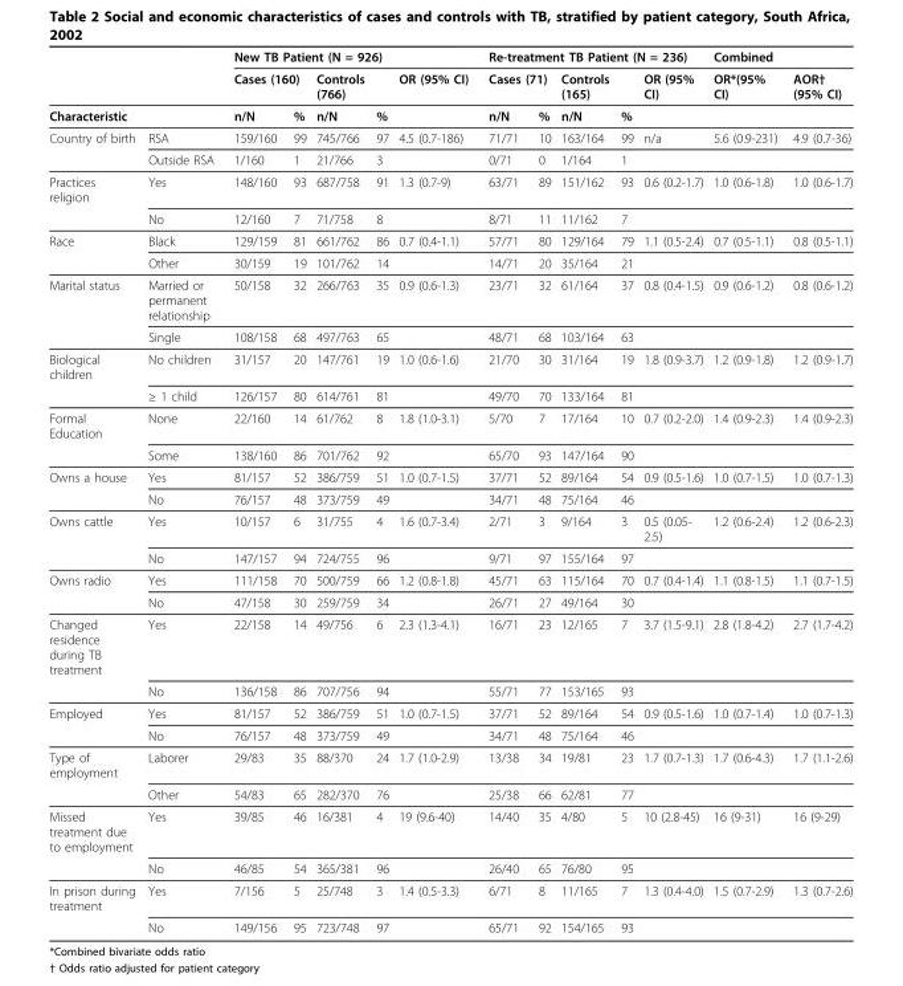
<table><thead><tr><td rowspan="2"></td><td rowspan="2"></td><td colspan="5">New TB Patient (N = 926)</td><td colspan="5">Re-treatment TB Patient (N = 236)</td><td colspan="2">Combined</td></tr><tr><td colspan="2">Cases (160)</td><td colspan="2">Controls (766)</td><td rowspan="2">OR (95% CI)</td><td colspan="2">Cases (71)</td><td colspan="2">Controls (165)</td><td rowspan="2">OR (95% CI)</td><td rowspan="2">OR*(95% CI)</td><td rowspan="2">AOR† (95% CI)</td></tr><tr><td colspan="2">Characteristic</td><td>n/N</td><td>%</td><td>n/N</td><td>%</td><td>n/N</td><td>%</td><td>n/N</td><td>%</td></tr></thead><tbody><tr><td rowspan="2">Country of birth</td><td>RSA</td><td>159/160</td><td>99</td><td>745/766</td><td>97</td><td>4.5 (0.7-186)</td><td>71/71</td><td>10</td><td>163/164</td><td>99</td><td>n/a</td><td>5.6 (0.9-231)</td><td>4.9 (0.7-36)</td></tr><tr><td>Outside RSA</td><td>1/160</td><td>1</td><td>21/766</td><td>3</td><td></td><td>0/71</td><td>0</td><td>1/164</td><td>1</td><td></td><td></td><td></td></tr><tr><td rowspan="2">Practices religion</td><td>Yes</td><td>148/160</td><td>93</td><td>687/758</td><td>91</td><td>1.3 (0.7-9)</td><td>63/71</td><td>89</td><td>151/162</td><td>93</td><td>0.6 (0.2-1.7)</td><td>1.0 (0.6-1.8)</td><td>1.0 (0.6-1.7)</td></tr><tr><td>No</td><td>12/160</td><td>7</td><td>71/758</td><td>8</td><td></td><td>8/71</td><td>11</td><td>11/162</td><td>7</td><td></td><td></td><td></td></tr><tr><td rowspan="2">Race</td><td>Black</td><td>129/159</td><td>81</td><td>661/762</td><td>86</td><td>0.7 (0.4-1.1)</td><td>57/71</td><td>80</td><td>129/164</td><td>79</td><td>1.1 (0.5-2.4)</td><td>0.7 (0.5-1.1)</td><td>0.8 (0.5-1.1)</td></tr><tr><td>Other</td><td>30/159</td><td>19</td><td>101/762</td><td>14</td><td></td><td>14/71</td><td>20</td><td>35/164</td><td>21</td><td></td><td></td><td></td></tr><tr><td rowspan="2">Marital status</td><td>Married or permanent relationship</td><td>50/158</td><td>32</td><td>266/763</td><td>35</td><td>0.9 (0.6-1.3)</td><td>23/71</td><td>32</td><td>61/164</td><td>37</td><td>0.8 (0.4-1.5)</td><td>0.9 (0.6-1.2)</td><td>0.8 (0.6-1.2)</td></tr><tr><td>Single</td><td>108/158</td><td>68</td><td>497/763</td><td>65</td><td></td><td>48/71</td><td>68</td><td>103/164</td><td>63</td><td></td><td></td><td></td></tr><tr><td rowspan="2">Biological children</td><td>No children</td><td>31/157</td><td>20</td><td>147/761</td><td>19</td><td>1.0 (0.6-1.6)</td><td>21/70</td><td>30</td><td>31/164</td><td>19</td><td>1.8 (0.9-3.7)</td><td>1.2 (0.9-1.8)</td><td>1.2 (0.9-1.7)</td></tr><tr><td>≥ 1 child</td><td>126/157</td><td>80</td><td>614/761</td><td>81</td><td></td><td>49/70</td><td>70</td><td>133/164</td><td>81</td><td></td><td></td><td></td></tr><tr><td rowspan="2">Formal Education</td><td>None</td><td>22/160</td><td>14</td><td>61/762</td><td>8</td><td>1.8 (1.0-3.1)</td><td>5/70</td><td>7</td><td>17/164</td><td>10</td><td>0.7 (0.2-2.0)</td><td>1.4 (0.9-2.3)</td><td>1.4 (0.9-2.3)</td></tr><tr><td>Some</td><td>138/160</td><td>86</td><td>701/762</td><td>92</td><td></td><td>65/70</td><td>93</td><td>147/164</td><td>90</td><td></td><td></td><td></td></tr><tr><td rowspan="2">Owns a house</td><td>Yes</td><td>81/157</td><td>52</td><td>386/759</td><td>51</td><td>1.0 (0.7-1.5)</td><td>37/71</td><td>52</td><td>89/164</td><td>54</td><td>0.9 (0.5-1.6)</td><td>1.0 (0.7-1.5)</td><td>1.0 (0.7-1.3)</td></tr><tr><td>No</td><td>76/157</td><td>48</td><td>373/759</td><td>49</td><td></td><td>34/71</td><td>48</td><td>75/164</td><td>46</td><td></td><td></td><td></td></tr><tr><td rowspan="2">Owns cattle</td><td>Yes</td><td>10/157</td><td>6</td><td>31/755</td><td>4</td><td>1.6 (0.7-3.4)</td><td>2/71</td><td>3</td><td>9/164</td><td>3</td><td>0.5 (0.05- 2.5)</td><td>1.2 (0.6-2.4)</td><td>1.2 (0.6-2.3)</td></tr><tr><td>No</td><td>147/157</td><td>94</td><td>724/755</td><td>96</td><td></td><td>9/71</td><td>97</td><td>155/164</td><td>97</td><td></td><td></td><td></td></tr><tr><td rowspan="2">Owns radio</td><td>Yes</td><td>111/158</td><td>70</td><td>500/759</td><td>66</td><td>1.2 (0.8-1.8)</td><td>45/71</td><td>63</td><td>115/164</td><td>70</td><td>0.7 (0.4-1.4)</td><td>1.1 (0.8-1.5)</td><td>1.1 (0.7-1.5)</td></tr><tr><td>No</td><td>47/158</td><td>30</td><td>259/759</td><td>34</td><td></td><td>26/71</td><td>27</td><td>49/164</td><td>30</td><td></td><td></td><td></td></tr><tr><td rowspan="2">Changed residence during TB treatment</td><td>Yes</td><td>22/158</td><td>14</td><td>49/756</td><td>6</td><td>2.3 (1.3-4.1)</td><td>16/71</td><td>23</td><td>12/165</td><td>7</td><td>3.7 (1.5-9.1)</td><td>2.8 (1.8-4.2)</td><td>2.7 (1.7-4.2)</td></tr><tr><td>No</td><td>136/158</td><td>86</td><td>707/756</td><td>94</td><td></td><td>55/71</td><td>77</td><td>153/165</td><td>93</td><td></td><td></td><td></td></tr><tr><td rowspan="2">Employed</td><td>Yes</td><td>81/157</td><td>52</td><td>386/759</td><td>51</td><td>1.0 (0.7-1.5)</td><td>37/71</td><td>52</td><td>89/164</td><td>54</td><td>0.9 (0.5-1.6)</td><td>1.0 (0.7-1.4)</td><td>1.0 (0.7-1.3)</td></tr><tr><td>No</td><td>76/157</td><td>48</td><td>373/759</td><td>49</td><td></td><td>34/71</td><td>48</td><td>75/164</td><td>46</td><td></td><td></td><td></td></tr><tr><td rowspan="2">Type of employment</td><td>Laborer</td><td>29/83</td><td>35</td><td>88/370</td><td>24</td><td>1.7 (1.0-2.9)</td><td>13/38</td><td>34</td><td>19/81</td><td>23</td><td>1.7 (0.7-1.3)</td><td>1.7 (0.6-4.3)</td><td>1.7 (1.1-2.6)</td></tr><tr><td>Other</td><td>54/83</td><td>65</td><td>282/370</td><td>76</td><td></td><td>25/38</td><td>66</td><td>62/81</td><td>77</td><td></td><td></td><td></td></tr><tr><td rowspan="2">Missed treatment due to employment</td><td>Yes</td><td>39/85</td><td>46</td><td>16/381</td><td>4</td><td>19 (9.6-40)</td><td>14/40</td><td>35</td><td>4/80</td><td>5</td><td>10 (2.8-45)</td><td>16 (9-31)</td><td>16 (9-29)</td></tr><tr><td>No</td><td>46/85</td><td>54</td><td>365/381</td><td>96</td><td></td><td>26/40</td><td>65</td><td>76/80</td><td>95</td><td></td><td></td><td></td></tr><tr><td rowspan="2">In prison during treatment</td><td>Yes</td><td>7/156</td><td>5</td><td>25/748</td><td>3</td><td>1.4 (0.5-3.3)</td><td>6/71</td><td>8</td><td>11/165</td><td>7</td><td>1.3 (0.4-4.0)</td><td>1.5 (0.7-2.9)</td><td>1.3 (0.7-2.6)</td></tr><tr><td>No</td><td>149/156</td><td>95</td><td>723/748</td><td>97</td><td></td><td>65/71</td><td>92</td><td>154/165</td><td>93</td><td></td><td></td><td></td></tr></tbody></table>